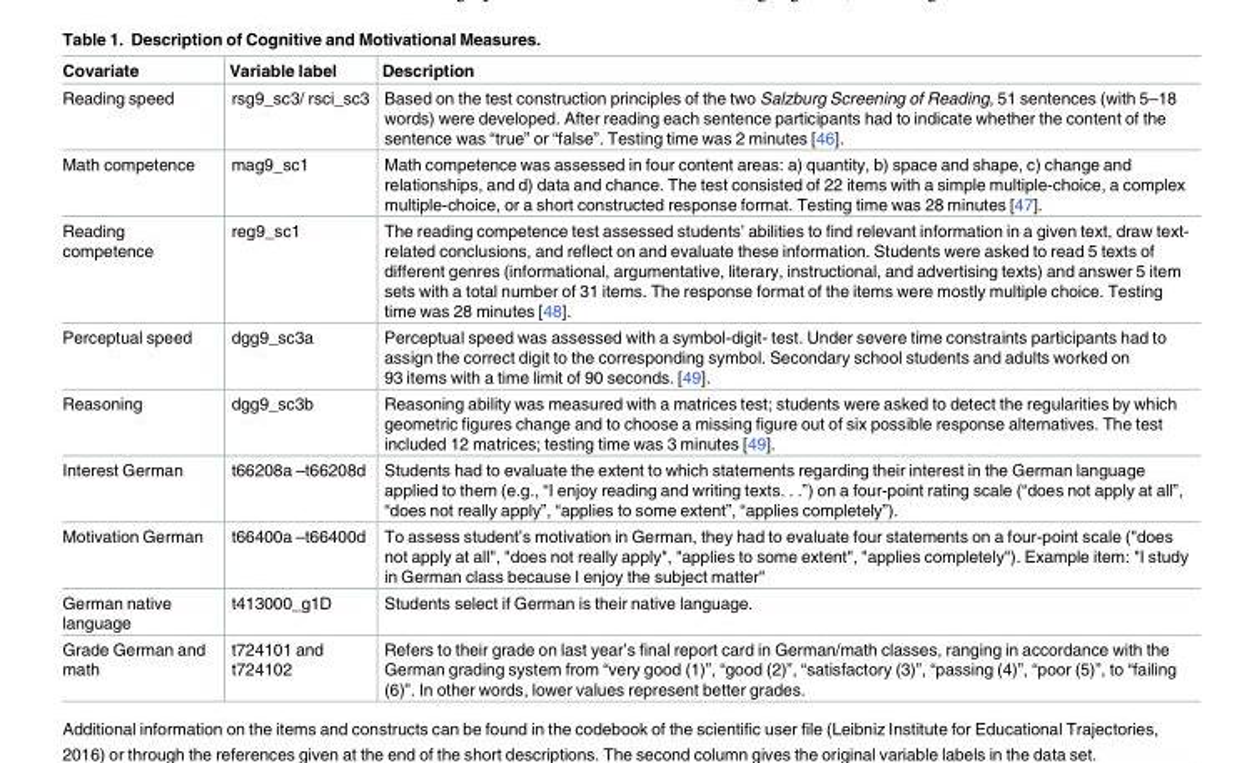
<table><thead><tr><td>Covariate</td><td>Variable label</td><td>Description</td></tr></thead><tbody><tr><td>Reading speed</td><td>rsg9_sc3/ rsci_sc3</td><td>Based on the test construction principles of the two Salzburg Screening of Reading, 51 sentences (with 5–18 words) were developed. After reading each sentence participants had to indicate whether the content of the sentence was “true” or “false”. Testing time was 2 minutes [46].</td></tr><tr><td>Math competence</td><td>mag9_sc1</td><td>Math competence was assessed in four content areas: a) quantity, b) space and shape, c) change and relationships, and d) data and chance. The test consisted of 22 items with a simple multiple-choice, a complex multiple-choice, or a short constructed response format. Testing time was 28 minutes [47].</td></tr><tr><td>Reading competence</td><td>reg9_sc1</td><td>The reading competence test assessed students’ abilities to find relevant information in a given text, draw text- related conclusions, and reflect on and evaluate these information. Students were asked to read 5 texts of different genres (informational, argumentative, literary, instructional, and advertising texts) and answer 5 item sets with a total number of 31 items. The response format of the items were mostly multiple choice. Testing time was 28 minutes [48].</td></tr><tr><td>Perceptual speed</td><td>dgg9_sc3a</td><td>Perceptual speed was assessed with a symbol-digit- test. Under severe time constraints participants had to assign the correct digit to the corresponding symbol. Secondary school students and adults worked on 93 items with a time limit of 90 seconds. [49].</td></tr><tr><td>Reasoning</td><td>dgg9_sc3b</td><td>Reasoning ability was measured with a matrices test; students were asked to detect the regularities by which geometric figures change and to choose a missing figure out of six possible response alternatives. The test included 12 matrices; testing time was 3 minutes [49].</td></tr><tr><td>Interest German</td><td>t66208a –t66208d</td><td>Students had to evaluate the extent to which statements regarding their interest in the German language applied to them (e.g., “I enjoy reading and writing texts. . .”) on a four-point rating scale (“does not apply at all”, “does not really apply”, “applies to some extent”, “applies completely”).</td></tr><tr><td>Motivation German</td><td>t66400a –t66400d</td><td>To assess student’s motivation in German, they had to evaluate four statements on a four-point scale (&quot;does not apply at all&quot;, &quot;does not really apply&quot;, &quot;applies to some extent&quot;, &quot;applies completely&quot;). Example item: &quot;I study in German class because I enjoy the subject matter&quot;</td></tr><tr><td>German native language</td><td>t413000_g1D</td><td>Students select if German is their native language.</td></tr><tr><td>Grade German and math</td><td>t724101 and t724102</td><td>Refers to their grade on last year’s final report card in German/math classes, ranging in accordance with the German grading system from “very good (1)”, “good (2)”, “satisfactory (3)”, “passing (4)”, “poor (5)”, to “failing (6)”. In other words, lower values represent better grades.</td></tr></tbody></table>